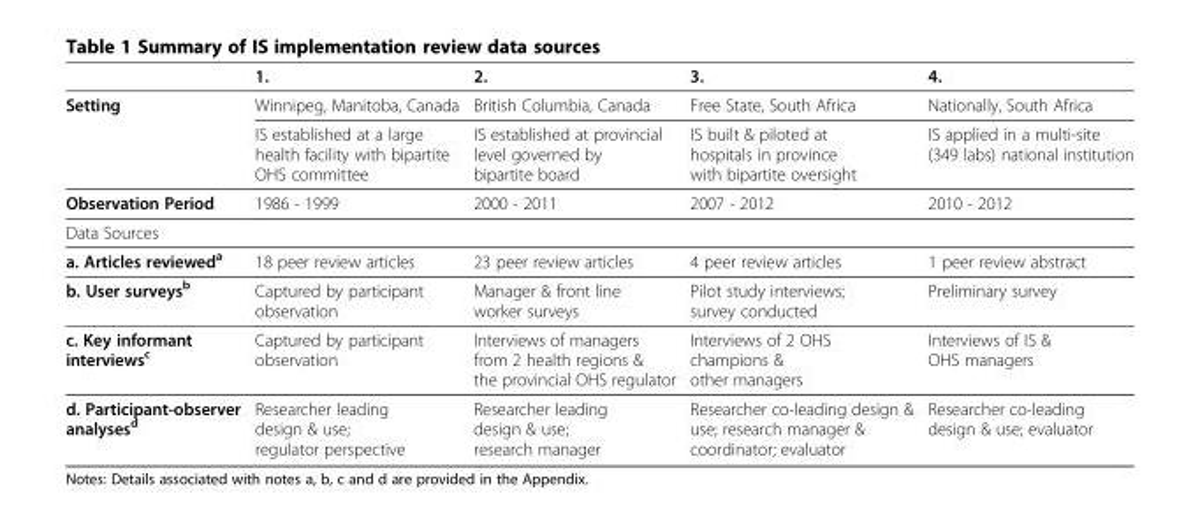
<table><thead><tr><td></td><td>1.</td><td>2.</td><td>3.</td><td>4.</td></tr></thead><tbody><tr><td rowspan="2">Setting</td><td>Winnipeg, Manitoba, Canada</td><td>British Columbia, Canada</td><td>Free State, South Africa</td><td>Nationally, South Africa</td></tr><tr><td>IS established at a large health facility with bipartite OHS committee</td><td>IS established at provincial level governed by bipartite board</td><td>IS built &amp; piloted at hospitals in province with bipartite oversight</td><td>IS applied in a multi-site (349 labs) national institution</td></tr><tr><td>Observation Period</td><td>1986 - 1999</td><td>2000 - 2011</td><td>2007 - 2012</td><td>2010 - 2012</td></tr><tr><td colspan="5">Data Sources</td></tr><tr><td>a. Articles reviewed<sup>a</sup></td><td>18 peer review articles</td><td>23 peer review articles</td><td>4 peer review articles</td><td>1 peer review abstract</td></tr><tr><td>b. User surveys<sup>b</sup></td><td>Captured by participant observation</td><td>Manager &amp; front line worker surveys</td><td>Pilot study interviews; survey conducted</td><td>Preliminary survey</td></tr><tr><td>c. Key informant interviews<sup>c</sup></td><td>Captured by participant observation</td><td>Interviews of managers from 2 health regions &amp; the provincial OHS regulator</td><td>Interviews of 2 OHS champions &amp; other managers</td><td>Interviews of IS &amp; OHS managers</td></tr><tr><td>d. Participant-observer analyses<sup>d</sup></td><td>Researcher leading design &amp; use; regulator perspective</td><td>Researcher leading design &amp; use; research manager</td><td>Researcher co-leading design &amp; use; research manager &amp; coordinator; evaluator</td><td>Researcher co-leading design &amp; use; evaluator</td></tr></tbody></table>